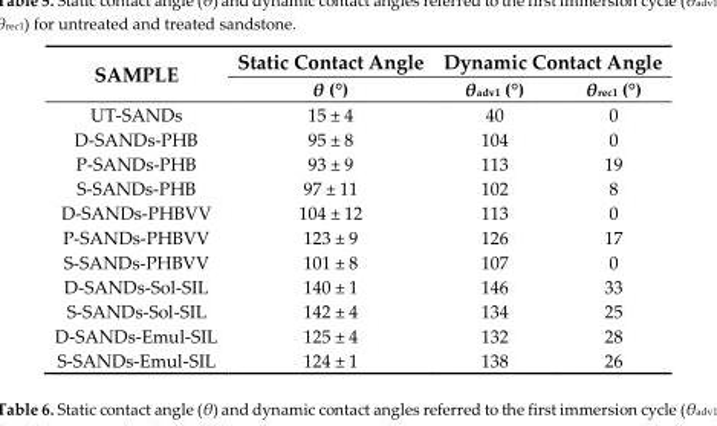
<table><thead><tr><td rowspan="2">SAMPLE</td><td rowspan="2">Static Contact Angle θ (°)</td><td colspan="2">Dynamic Contact Angle</td></tr><tr><td>θ<sub>adv1</sub> (°)</td><td>θ<sub>rec1</sub> (°)</td></tr></thead><tbody><tr><td>UT-SANDs</td><td>15 ± 4</td><td>40</td><td>0</td></tr><tr><td>D-SANDs-PHB</td><td>95 ± 8</td><td>104</td><td>0</td></tr><tr><td>P-SANDs-PHB</td><td>93 ± 9</td><td>113</td><td>19</td></tr><tr><td>S-SANDs-PHB</td><td>97 ± 11</td><td>102</td><td>8</td></tr><tr><td>D-SANDs-PHBVV</td><td>104 ± 12</td><td>113</td><td>0</td></tr><tr><td>P-SANDs-PHBVV</td><td>123 ± 9</td><td>126</td><td>17</td></tr><tr><td>S-SANDs-PHBVV</td><td>101 ± 8</td><td>107</td><td>0</td></tr><tr><td>D-SANDs-Sol-SIL</td><td>140 ± 1</td><td>146</td><td>33</td></tr><tr><td>S-SANDs-Sol-SIL</td><td>142 ± 4</td><td>134</td><td>25</td></tr><tr><td>D-SANDs-Emul-SIL</td><td>125 ± 4</td><td>132</td><td>28</td></tr><tr><td>S-SANDs-Emul-SIL</td><td>124 ± 1</td><td>138</td><td>26</td></tr></tbody></table>